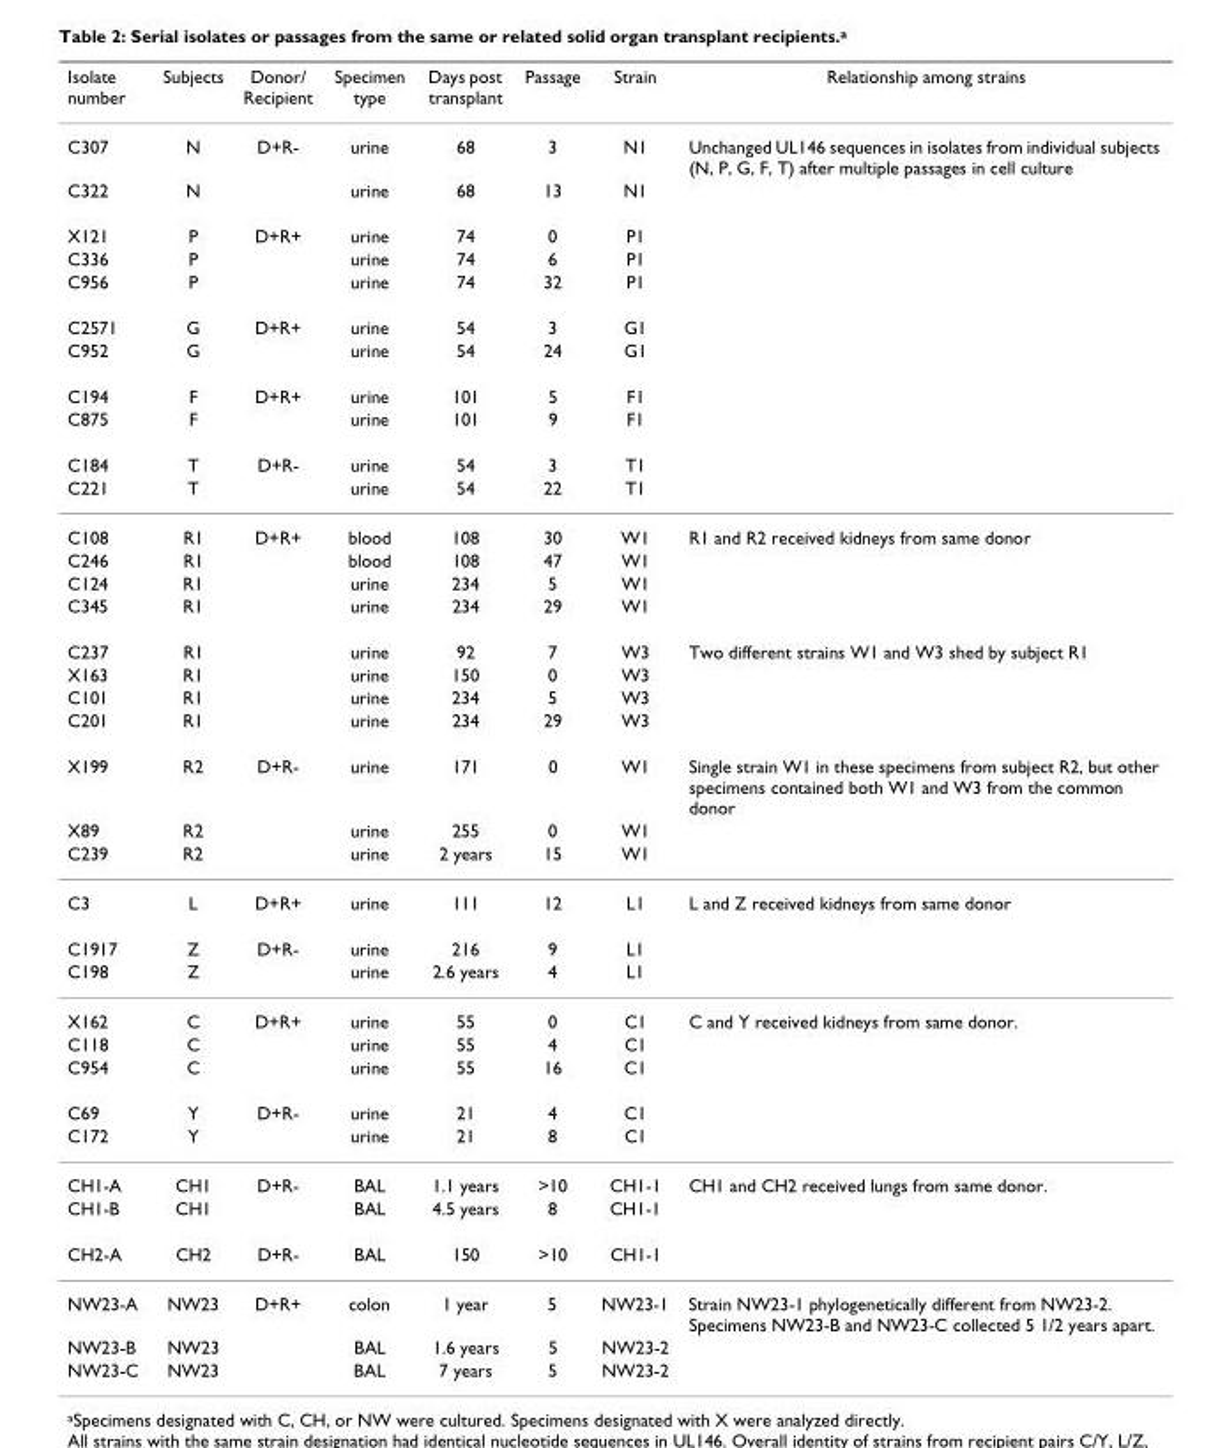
<table><thead><tr><td>Isolate number</td><td>Subjects</td><td>Donor/ Recipient</td><td>Specimen type</td><td>Days post transplant</td><td>Passage</td><td>Strain</td><td>Relationship among strains</td></tr></thead><tbody><tr><td>C307</td><td>N</td><td>D+R-</td><td>urine</td><td>68</td><td>3</td><td>N1</td><td>Unchanged UL146 sequences in isolates from individual subjects (N, P, G, F, T) after multiple passages in cell culture</td></tr><tr><td>C322</td><td>N</td><td></td><td>urine</td><td>68</td><td>13</td><td>N1</td><td></td></tr><tr><td>X121</td><td>P</td><td>D+R+</td><td>urine</td><td>74</td><td>0</td><td>P1</td><td></td></tr><tr><td>C336</td><td>P</td><td></td><td>urine</td><td>74</td><td>6</td><td>P1</td><td></td></tr><tr><td>C956</td><td>P</td><td></td><td>urine</td><td>74</td><td>32</td><td>P1</td><td></td></tr><tr><td>C2571</td><td>G</td><td>D+R+</td><td>urine</td><td>54</td><td>3</td><td>G1</td><td></td></tr><tr><td>C952</td><td>G</td><td></td><td>urine</td><td>54</td><td>24</td><td>G1</td><td></td></tr><tr><td>C194</td><td>F</td><td>D+R+</td><td>urine</td><td>101</td><td>5</td><td>F1</td><td></td></tr><tr><td>C875</td><td>F</td><td></td><td>urine</td><td>101</td><td>9</td><td>F1</td><td></td></tr><tr><td>C184</td><td>T</td><td>D+R-</td><td>urine</td><td>54</td><td>3</td><td>T1</td><td></td></tr><tr><td>C221</td><td>T</td><td></td><td>urine</td><td>54</td><td>22</td><td>T1</td><td></td></tr><tr><td>C108</td><td>R1</td><td>D+R+</td><td>blood</td><td>108</td><td>30</td><td>W1</td><td>R1 and R2 received kidneys from same donor</td></tr><tr><td>C246</td><td>R1</td><td></td><td>blood</td><td>108</td><td>47</td><td>W1</td><td></td></tr><tr><td>C124</td><td>R1</td><td></td><td>urine</td><td>234</td><td>5</td><td>W1</td><td></td></tr><tr><td>C345</td><td>R1</td><td></td><td>urine</td><td>234</td><td>29</td><td>W1</td><td></td></tr><tr><td>C237</td><td>R1</td><td></td><td>urine</td><td>92</td><td>7</td><td>W3</td><td>Two different strains W1 and W3 shed by subject R1</td></tr><tr><td>X163</td><td>R1</td><td></td><td>urine</td><td>150</td><td>0</td><td>W3</td><td></td></tr><tr><td>C101</td><td>R1</td><td></td><td>urine</td><td>234</td><td>5</td><td>W3</td><td></td></tr><tr><td>C201</td><td>R1</td><td></td><td>urine</td><td>234</td><td>29</td><td>W3</td><td></td></tr><tr><td>X199</td><td>R2</td><td>D+R-</td><td>urine</td><td>171</td><td>0</td><td>W1</td><td>Single strain W1 in these specimens from subject R2, but other specimens contained both W1 and W3 from the common donor</td></tr><tr><td>X89</td><td>R2</td><td></td><td>urine</td><td>255</td><td>0</td><td>W1</td><td></td></tr><tr><td>C239</td><td>R2</td><td></td><td>urine</td><td>2 years</td><td>15</td><td>W1</td><td></td></tr><tr><td>C3</td><td>L</td><td>D+R+</td><td>urine</td><td>111</td><td>12</td><td>L1</td><td>L and Z received kidneys from same donor</td></tr><tr><td>C1917</td><td>Z</td><td>D+R-</td><td>urine</td><td>216</td><td>9</td><td>L1</td><td></td></tr><tr><td>C198</td><td>Z</td><td></td><td>urine</td><td>2.6 years</td><td>4</td><td>L1</td><td></td></tr><tr><td>X162</td><td>C</td><td>D+R+</td><td>urine</td><td>55</td><td>0</td><td>C1</td><td>C and Y received kidneys from same donor.</td></tr><tr><td>C118</td><td>C</td><td></td><td>urine</td><td>55</td><td>4</td><td>C1</td><td></td></tr><tr><td>C954</td><td>C</td><td></td><td>urine</td><td>55</td><td>16</td><td>C1</td><td></td></tr><tr><td>C69</td><td>Y</td><td>D+R-</td><td>urine</td><td>21</td><td>4</td><td>C1</td><td></td></tr><tr><td>C172</td><td>Y</td><td></td><td>urine</td><td>21</td><td>8</td><td>C1</td><td></td></tr><tr><td>CH1-A</td><td>CH1</td><td>D+R-</td><td>BAL</td><td>1.1 years</td><td>&gt;10</td><td>CH1-1</td><td>CH1 and CH2 received lungs from same donor.</td></tr><tr><td>CH1-B</td><td>CH1</td><td></td><td>BAL</td><td>4.5 years</td><td>8</td><td>CH1-1</td><td></td></tr><tr><td>CH2-A</td><td>CH2</td><td>D+R-</td><td>BAL</td><td>150</td><td>&gt;10</td><td>CH1-1</td><td></td></tr><tr><td>NW23-A</td><td>NW23</td><td>D+R+</td><td>colon</td><td>1 year</td><td>5</td><td>NW23-1</td><td>Strain NW23-1 phylogenetically different from NW23-2. Specimens NW23-B and NW23-C collected 5 1/2 years apart.</td></tr><tr><td>NW23-B</td><td>NW23</td><td></td><td>BAL</td><td>1.6 years</td><td>5</td><td>NW23-2</td><td></td></tr><tr><td>NW23-C</td><td>NW23</td><td></td><td>BAL</td><td>7 years</td><td>5</td><td>NW23-2</td><td></td></tr></tbody></table>